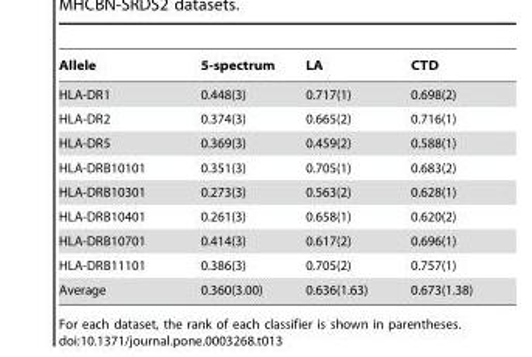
<table><thead><tr><td>Allele</td><td>5-spectrum</td><td>LA</td><td>CTD</td></tr></thead><tbody><tr><td>HLA-DR1</td><td>0.448(3)</td><td>0.717(1)</td><td>0.698(2)</td></tr><tr><td>HLA-DR2</td><td>0.374(3)</td><td>0.665(2)</td><td>0.716(1)</td></tr><tr><td>HLA-DR5</td><td>0.369(3)</td><td>0.459(2)</td><td>0.588(1)</td></tr><tr><td>HLA-DRB10101</td><td>0.351(3)</td><td>0.705(1)</td><td>0.683(2)</td></tr><tr><td>HLA-DRB10301</td><td>0.273(3)</td><td>0.563(2)</td><td>0.628(1)</td></tr><tr><td>HLA-DRB10401</td><td>0.261(3)</td><td>0.658(1)</td><td>0.620(2)</td></tr><tr><td>HLA-DRB10701</td><td>0.414(3)</td><td>0.617(2)</td><td>0.696(1)</td></tr><tr><td>HLA-DRB11101</td><td>0.386(3)</td><td>0.705(2)</td><td>0.757(1)</td></tr><tr><td>Average</td><td>0.360(3.00)</td><td>0.636(1.63)</td><td>0.673(1.38)</td></tr></tbody></table>